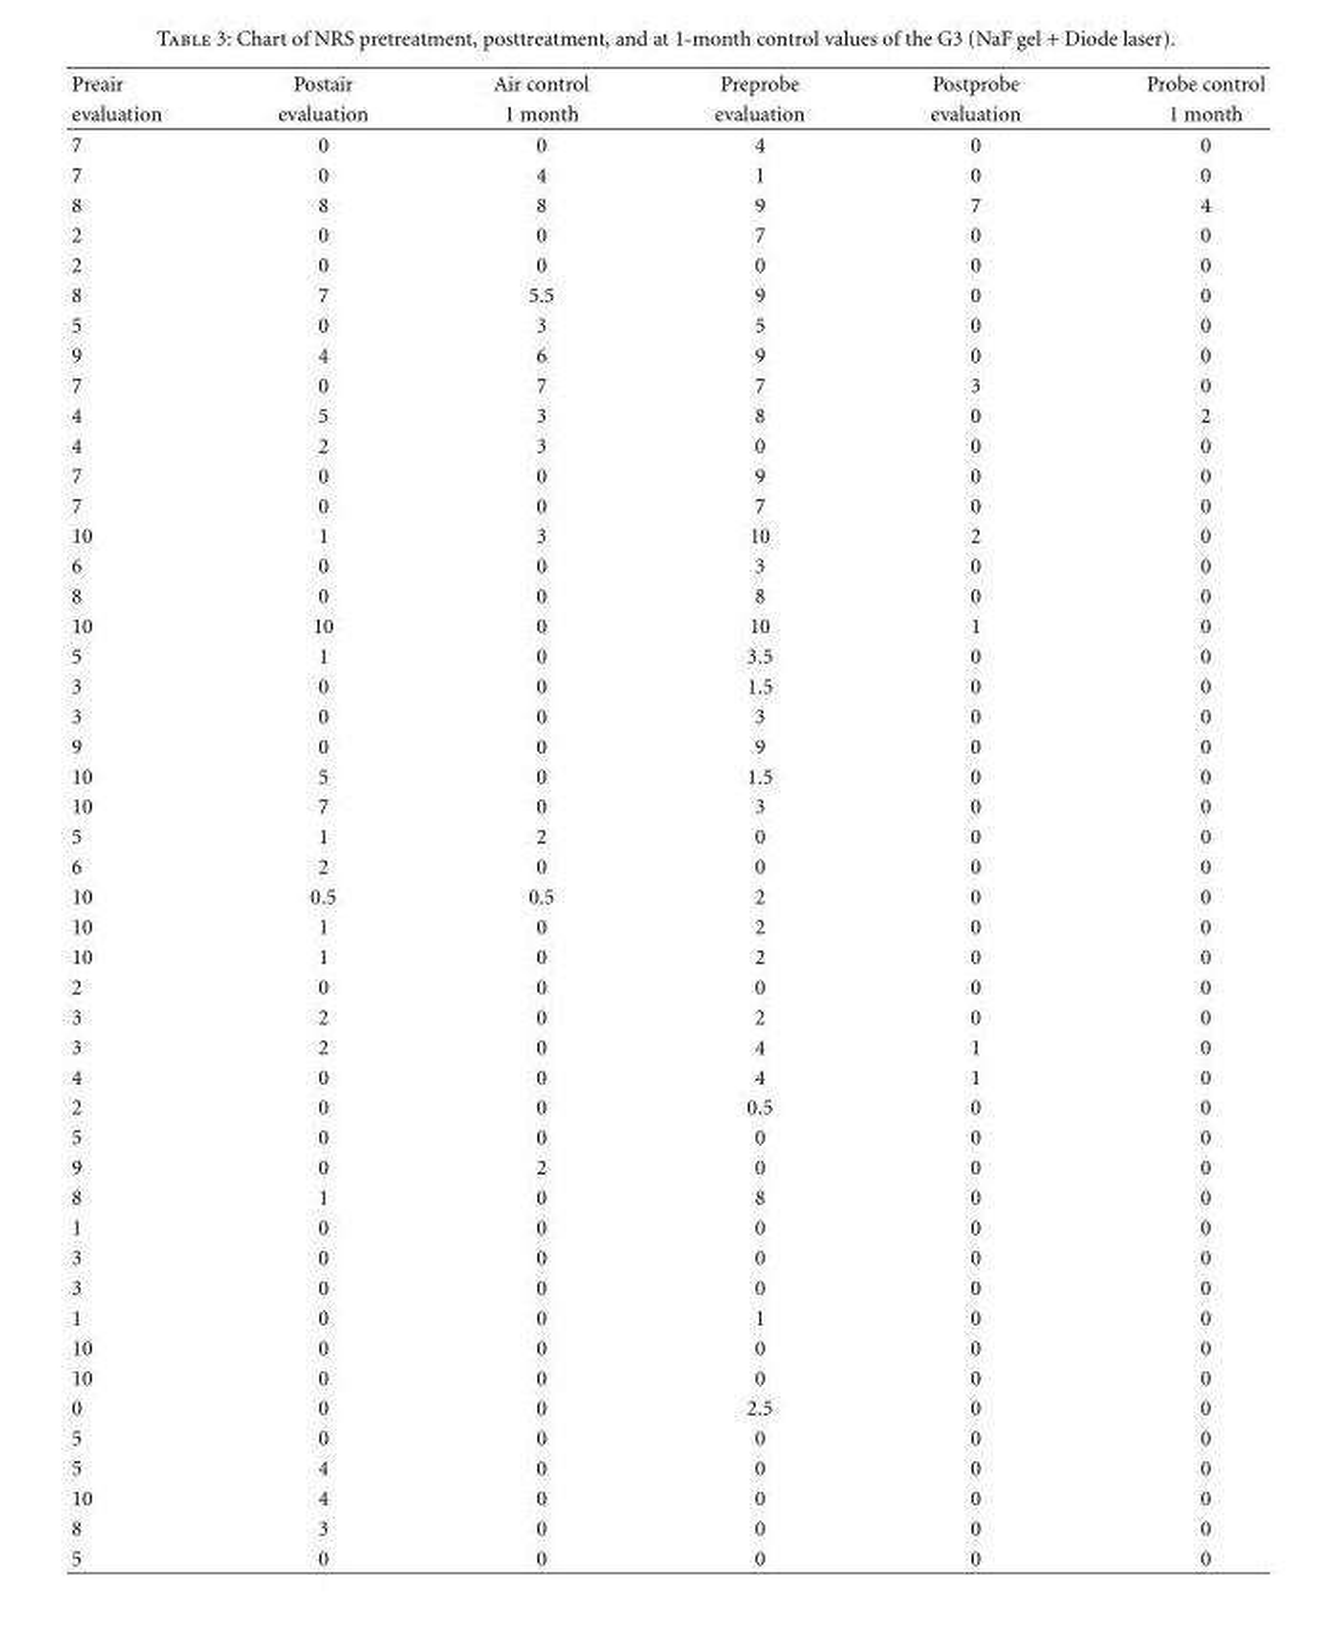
<table><thead><tr><td rowspan="2">Preair evaluation</td><td rowspan="2">Postair evaluation</td><td rowspan="2">Air control 1 month</td><td rowspan="2">Preprobe evaluation</td><td rowspan="2">Postprobe evaluation</td><td rowspan="2">Probe control 1 month</td></tr><tr></tr></thead><tbody><tr><td>7</td><td>0</td><td>0</td><td>4</td><td>0</td><td>0</td></tr><tr><td>7</td><td>0</td><td>4</td><td>1</td><td>0</td><td>0</td></tr><tr><td>8</td><td>8</td><td>8</td><td>9</td><td>7</td><td>4</td></tr><tr><td>2</td><td>0</td><td>0</td><td>7</td><td>0</td><td>0</td></tr><tr><td>2</td><td>0</td><td>0</td><td>0</td><td>0</td><td>0</td></tr><tr><td>8</td><td>7</td><td>5.5</td><td>9</td><td>0</td><td>0</td></tr><tr><td>5</td><td>0</td><td>3</td><td>5</td><td>0</td><td>0</td></tr><tr><td>9</td><td>4</td><td>6</td><td>9</td><td>0</td><td>0</td></tr><tr><td>7</td><td>0</td><td>7</td><td>7</td><td>3</td><td>0</td></tr><tr><td>4</td><td>5</td><td>3</td><td>8</td><td>0</td><td>2</td></tr><tr><td>4</td><td>2</td><td>3</td><td>0</td><td>0</td><td>0</td></tr><tr><td>7</td><td>0</td><td>0</td><td>9</td><td>0</td><td>0</td></tr><tr><td>7</td><td>0</td><td>0</td><td>7</td><td>0</td><td>0</td></tr><tr><td>10</td><td>1</td><td>3</td><td>10</td><td>2</td><td>0</td></tr><tr><td>6</td><td>0</td><td>0</td><td>3</td><td>0</td><td>0</td></tr><tr><td>8</td><td>0</td><td>0</td><td>8</td><td>0</td><td>0</td></tr><tr><td>10</td><td>10</td><td>0</td><td>10</td><td>1</td><td>0</td></tr><tr><td>5</td><td>1</td><td>0</td><td>3.5</td><td>0</td><td>0</td></tr><tr><td>3</td><td>0</td><td>0</td><td>1.5</td><td>0</td><td>0</td></tr><tr><td>3</td><td>0</td><td>0</td><td>3</td><td>0</td><td>0</td></tr><tr><td>9</td><td>0</td><td>0</td><td>9</td><td>0</td><td>0</td></tr><tr><td>10</td><td>5</td><td>0</td><td>1.5</td><td>0</td><td>0</td></tr><tr><td>10</td><td>7</td><td>0</td><td>3</td><td>0</td><td>0</td></tr><tr><td>5</td><td>1</td><td>2</td><td>0</td><td>0</td><td>0</td></tr><tr><td>6</td><td>2</td><td>0</td><td>0</td><td>0</td><td>0</td></tr><tr><td>10</td><td>0.5</td><td>0.5</td><td>2</td><td>0</td><td>0</td></tr><tr><td>10</td><td>1</td><td>0</td><td>2</td><td>0</td><td>0</td></tr><tr><td>10</td><td>1</td><td>0</td><td>2</td><td>0</td><td>0</td></tr><tr><td>2</td><td>0</td><td>0</td><td>0</td><td>0</td><td>0</td></tr><tr><td>3</td><td>2</td><td>0</td><td>2</td><td>0</td><td>0</td></tr><tr><td>3</td><td>2</td><td>0</td><td>4</td><td>1</td><td>0</td></tr><tr><td>4</td><td>0</td><td>0</td><td>4</td><td>1</td><td>0</td></tr><tr><td>2</td><td>0</td><td>0</td><td>0.5</td><td>0</td><td>0</td></tr><tr><td>5</td><td>0</td><td>0</td><td>0</td><td>0</td><td>0</td></tr><tr><td>9</td><td>0</td><td>2</td><td>0</td><td>0</td><td>0</td></tr><tr><td>8</td><td>1</td><td>0</td><td>8</td><td>0</td><td>0</td></tr><tr><td>1</td><td>0</td><td>0</td><td>0</td><td>0</td><td>0</td></tr><tr><td>3</td><td>0</td><td>0</td><td>0</td><td>0</td><td>0</td></tr><tr><td>3</td><td>0</td><td>0</td><td>0</td><td>0</td><td>0</td></tr><tr><td>1</td><td>0</td><td>0</td><td>1</td><td>0</td><td>0</td></tr><tr><td>10</td><td>0</td><td>0</td><td>0</td><td>0</td><td>0</td></tr><tr><td>10</td><td>0</td><td>0</td><td>0</td><td>0</td><td>0</td></tr><tr><td>0</td><td>0</td><td>0</td><td>2.5</td><td>0</td><td>0</td></tr><tr><td>5</td><td>0</td><td>0</td><td>0</td><td>0</td><td>0</td></tr><tr><td>5</td><td>4</td><td>0</td><td>0</td><td>0</td><td>0</td></tr><tr><td>10</td><td>4</td><td>0</td><td>0</td><td>0</td><td>0</td></tr><tr><td>8</td><td>3</td><td>0</td><td>0</td><td>0</td><td>0</td></tr><tr><td>5</td><td>0</td><td>0</td><td>0</td><td>0</td><td>0</td></tr></tbody></table>